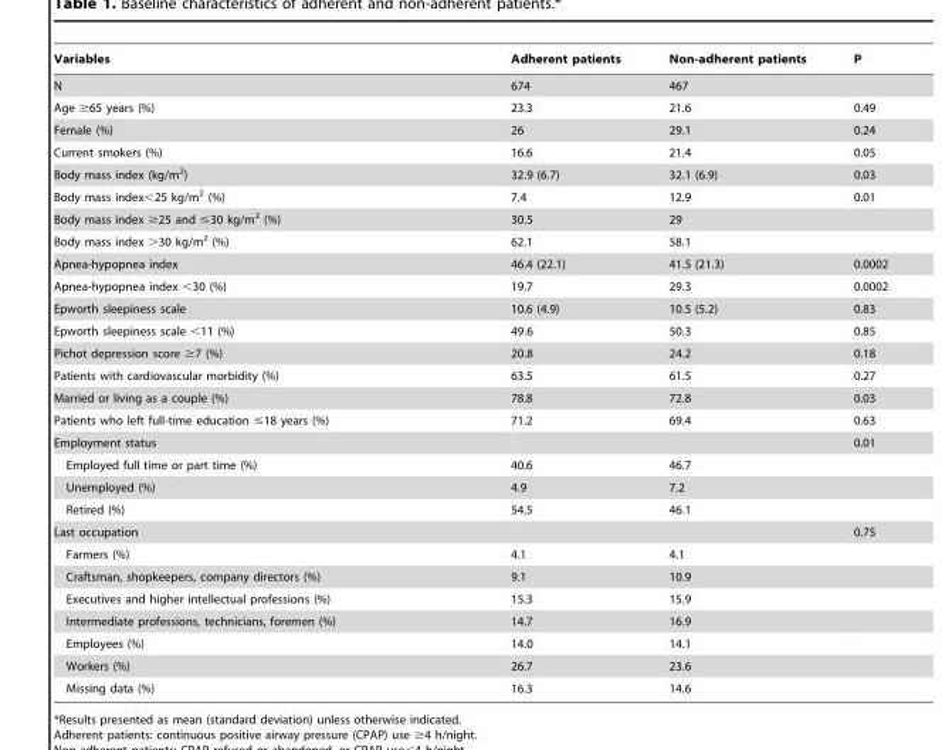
<table><thead><tr><td>Variables</td><td>Adherent patients</td><td>Non-adherent patients</td><td>P</td></tr></thead><tbody><tr><td>N</td><td>674</td><td>467</td><td></td></tr><tr><td>Age ≥65 years (%)</td><td>23.3</td><td>21.6</td><td>0.49</td></tr><tr><td>Female (%)</td><td>26</td><td>29.1</td><td>0.24</td></tr><tr><td>Current smokers (%)</td><td>16.6</td><td>21.4</td><td>0.05</td></tr><tr><td>Body mass index (kg/m<sup>2</sup>)</td><td>32.9 (6.7)</td><td>32.1 (6.9)</td><td>0.03</td></tr><tr><td>Body mass index&lt;25 kg/m<sup>2</sup> (%)</td><td>7.4</td><td>12.9</td><td>0.01</td></tr><tr><td>Body mass index ≥25 and ≤30 kg/m<sup>2</sup> (%)</td><td>30.5</td><td>29</td><td></td></tr><tr><td>Body mass index &gt;30 kg/m<sup>2</sup> (%)</td><td>62.1</td><td>58.1</td><td></td></tr><tr><td>Apnea-hypopnea index</td><td>46.4 (22.1)</td><td>41.5 (21.3)</td><td>0.0002</td></tr><tr><td>Apnea-hypopnea index &lt;30 (%)</td><td>19.7</td><td>29.3</td><td>0.0002</td></tr><tr><td>Epworth sleepiness scale</td><td>10.6 (4.9)</td><td>10.5 (5.2)</td><td>0.83</td></tr><tr><td>Epworth sleepiness scale &lt;11 (%)</td><td>49.6</td><td>50.3</td><td>0.85</td></tr><tr><td>Pichot depression score ≥7 (%)</td><td>20.8</td><td>24.2</td><td>0.18</td></tr><tr><td>Patients with cardiovascular morbidity (%)</td><td>63.5</td><td>61.5</td><td>0.27</td></tr><tr><td>Married or living as a couple (%)</td><td>78.8</td><td>72.8</td><td>0.03</td></tr><tr><td>Patients who left full-time education ≤18 years (%)</td><td>71.2</td><td>69.4</td><td>0.63</td></tr><tr><td>Employment status</td><td></td><td></td><td>0.01</td></tr><tr><td>Employed full time or part time (%)</td><td>40.6</td><td>46.7</td><td></td></tr><tr><td>Unemployed (%)</td><td>4.9</td><td>7.2</td><td></td></tr><tr><td>Retired (%)</td><td>54.5</td><td>46.1</td><td></td></tr><tr><td>Last occupation</td><td></td><td></td><td>0.75</td></tr><tr><td>Farmers (%)</td><td>4.1</td><td>4.1</td><td></td></tr><tr><td>Craftsman, shopkeepers, company directors (%)</td><td>9.1</td><td>10.9</td><td></td></tr><tr><td>Executives and higher intellectual professions (%)</td><td>15.3</td><td>15.9</td><td></td></tr><tr><td>Intermediate professions, technicians, foremen (%)</td><td>14.7</td><td>16.9</td><td></td></tr><tr><td>Employees (%)</td><td>14.0</td><td>14.1</td><td></td></tr><tr><td>Workers (%)</td><td>26.7</td><td>23.6</td><td></td></tr><tr><td>Missing data (%)</td><td>16.3</td><td>14.6</td><td></td></tr></tbody></table>